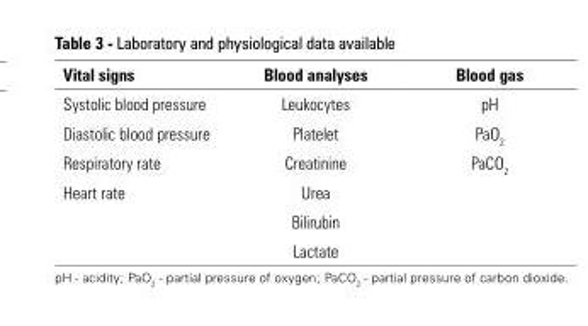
<table><thead><tr><td>Vital signs</td><td>Blood analyses</td><td>Blood gas</td></tr></thead><tbody><tr><td>Systolic blood pressure</td><td>Leukocytes</td><td>pH</td></tr><tr><td>Diastolic blood pressure</td><td>Platelet</td><td>PaO<sub>2</sub></td></tr><tr><td>Respiratory rate</td><td>Creatinine</td><td>PaCO<sub>2</sub></td></tr><tr><td rowspan="3">Heart rate</td><td>Urea</td><td></td></tr><tr><td>Bilirubin</td><td></td></tr><tr><td>Lactate</td><td></td></tr></tbody></table>